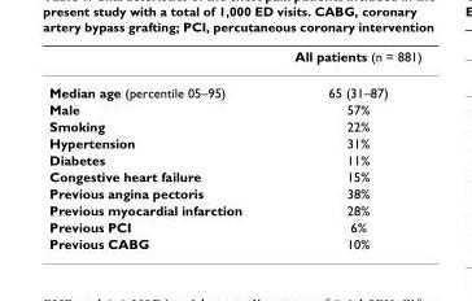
<table><thead><tr><td></td><td>All patients (n = 881)</td></tr></thead><tbody><tr><td>Median age (percentile 05–95)</td><td>65 (31–87)</td></tr><tr><td>Male</td><td>57%</td></tr><tr><td>Smoking</td><td>22%</td></tr><tr><td>Hypertension</td><td>31%</td></tr><tr><td>Diabetes</td><td>11%</td></tr><tr><td>Congestive heart failure</td><td>15%</td></tr><tr><td>Previous angina pectoris</td><td>38%</td></tr><tr><td>Previous myocardial infarction</td><td>28%</td></tr><tr><td>Previous PCI</td><td>6%</td></tr><tr><td>Previous CABG</td><td>10%</td></tr></tbody></table>